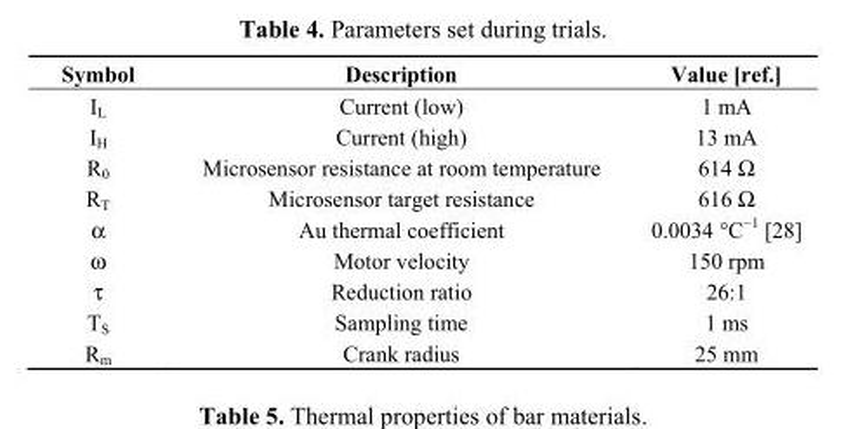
<table><thead><tr><td>Symbol</td><td>Description</td><td>Value [ref.]</td></tr></thead><tbody><tr><td>I<sub>L</sub></td><td>Current (low)</td><td>1 mA</td></tr><tr><td>I<sub>H</sub></td><td>Current (high)</td><td>13 mA</td></tr><tr><td>R<sub>0</sub></td><td>Microsensor resistance at room temperature</td><td>614 Ω</td></tr><tr><td>R<sub>T</sub></td><td>Microsensor target resistance</td><td>616 Ω</td></tr><tr><td>α</td><td>Au thermal coefficient</td><td>0.0034 °C<sup>−1</sup> [28]</td></tr><tr><td>ω</td><td>Motor velocity</td><td>150 rpm</td></tr><tr><td>τ</td><td>Reduction ratio</td><td>26:1</td></tr><tr><td>T<sub>S</sub></td><td>Sampling time</td><td>1 ms</td></tr><tr><td>R<sub>m</sub></td><td>Crank radius</td><td>25 mm</td></tr></tbody></table>